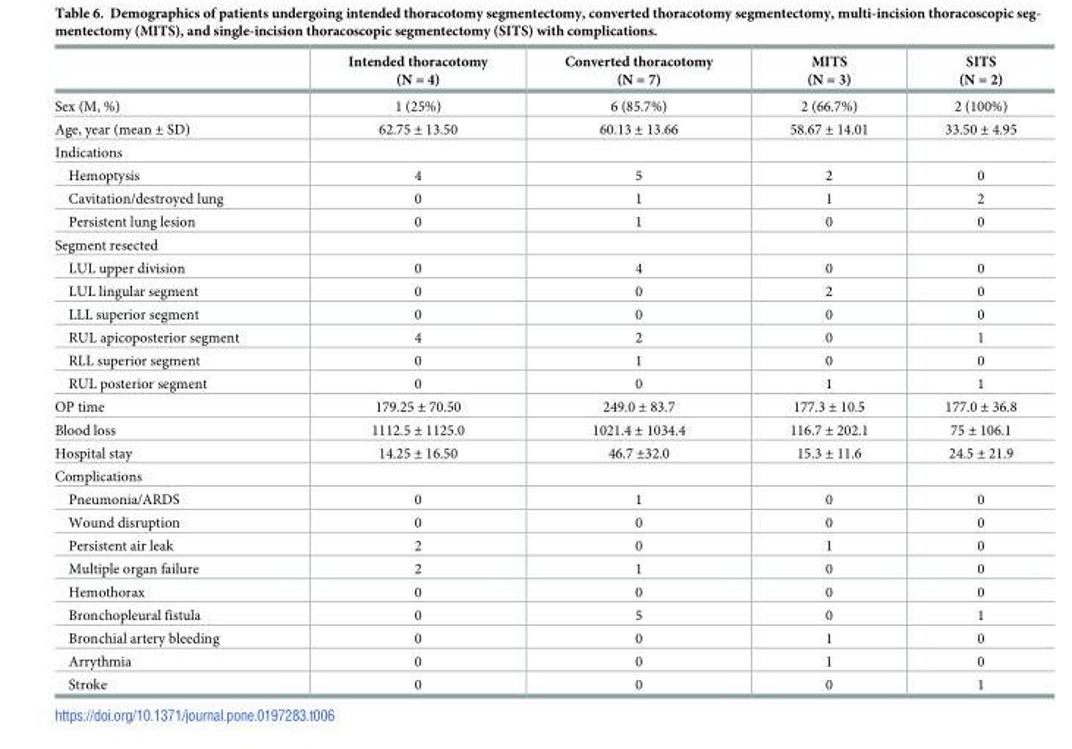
<table><thead><tr><td></td><td>Intended thoracotomy (N = 4)</td><td>Converted thoracotomy (N = 7)</td><td>MITS (N = 3)</td><td>SITS (N = 2)</td></tr></thead><tbody><tr><td>Sex (M, %)</td><td>1 (25%)</td><td>6 (85.7%)</td><td>2 (66.7%)</td><td>2 (100%)</td></tr><tr><td>Age, year (mean ± SD)</td><td>62.75 ± 13.50</td><td>60.13 ± 13.66</td><td>58.67 ± 14.01</td><td>33.50 ± 4.95</td></tr><tr><td colspan="5">Indications</td></tr><tr><td>Hemoptysis</td><td>4</td><td>5</td><td>2</td><td>0</td></tr><tr><td>Cavitation/destroyed lung</td><td>0</td><td>1</td><td>1</td><td>2</td></tr><tr><td>Persistent lung lesion</td><td>0</td><td>1</td><td>0</td><td>0</td></tr><tr><td colspan="5">Segment resected</td></tr><tr><td>LUL upper division</td><td>0</td><td>4</td><td>0</td><td>0</td></tr><tr><td>LUL lingular segment</td><td>0</td><td>0</td><td>2</td><td>0</td></tr><tr><td>LLL superior segment</td><td>0</td><td>0</td><td>0</td><td>0</td></tr><tr><td>RUL apicoposterior segment</td><td>4</td><td>2</td><td>0</td><td>1</td></tr><tr><td>RLL superior segment</td><td>0</td><td>1</td><td>0</td><td>0</td></tr><tr><td>RUL posterior segment</td><td>0</td><td>0</td><td>1</td><td>1</td></tr><tr><td>OP time</td><td>179.25 ± 70.50</td><td>249.0 ± 83.7</td><td>177.3 ± 10.5</td><td>177.0 ± 36.8</td></tr><tr><td>Blood loss</td><td>1112.5 ± 1125.0</td><td>1021.4 ± 1034.4</td><td>116.7 ± 202.1</td><td>75 ± 106.1</td></tr><tr><td>Hospital stay</td><td>14.25 ± 16.50</td><td>46.7 ±32.0</td><td>15.3 ± 11.6</td><td>24.5 ± 21.9</td></tr><tr><td colspan="5">Complications</td></tr><tr><td>Pneumonia/ARDS</td><td>0</td><td>1</td><td>0</td><td>0</td></tr><tr><td>Wound disruption</td><td>0</td><td>0</td><td>0</td><td>0</td></tr><tr><td>Persistent air leak</td><td>2</td><td>0</td><td>1</td><td>0</td></tr><tr><td>Multiple organ failure</td><td>2</td><td>1</td><td>0</td><td>0</td></tr><tr><td>Hemothorax</td><td>0</td><td>0</td><td>0</td><td>0</td></tr><tr><td>Bronchopleural fistula</td><td>0</td><td>5</td><td>0</td><td>1</td></tr><tr><td>Bronchial artery bleeding</td><td>0</td><td>0</td><td>1</td><td>0</td></tr><tr><td>Arrythmia</td><td>0</td><td>0</td><td>1</td><td>0</td></tr><tr><td>Stroke</td><td>0</td><td>0</td><td>0</td><td>1</td></tr></tbody></table>